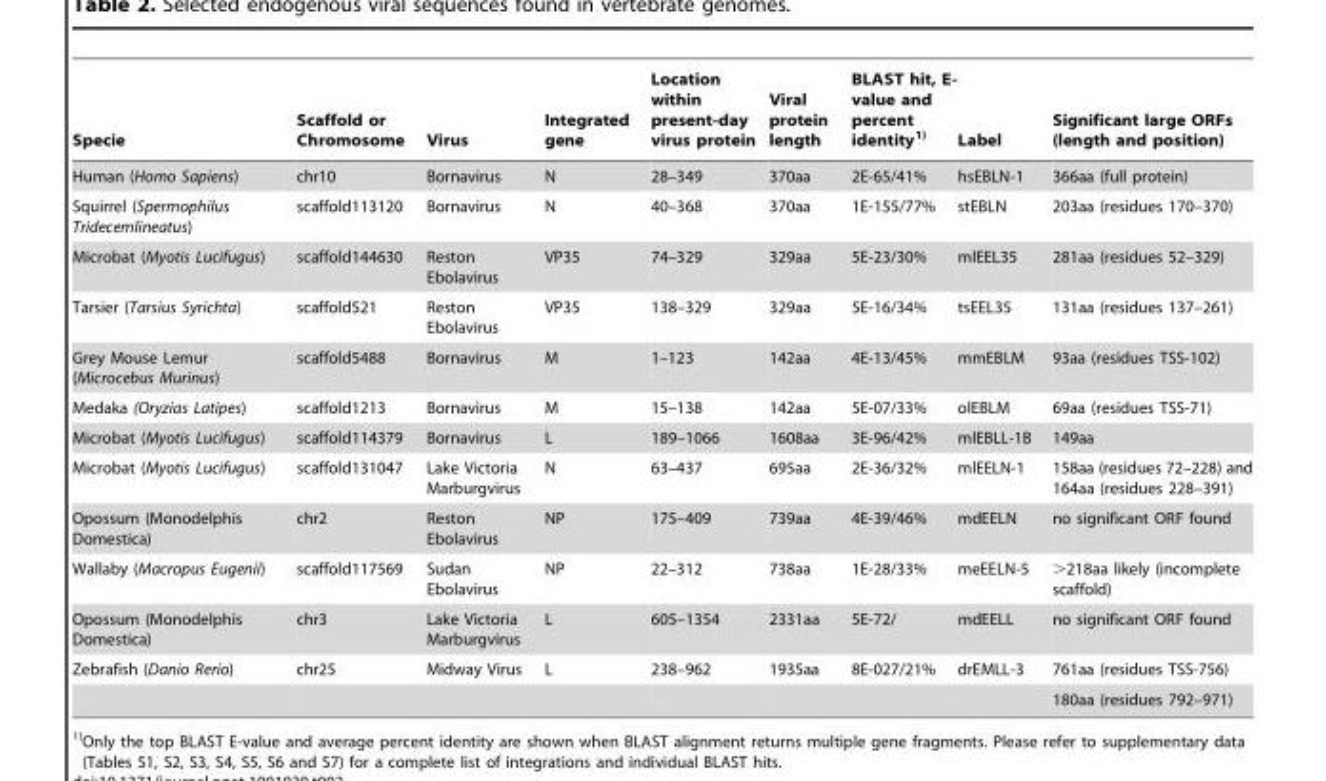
<table><thead><tr><td>Specie</td><td>Scaffold or Chromosome</td><td>Virus</td><td>Integrated gene</td><td>Location within present-day virus protein</td><td>Viral protein length</td><td>BLAST hit, E- value and percent identity1)</td><td>Label</td><td>Significant large ORFs (length and position)</td></tr></thead><tbody><tr><td>Human (Homo Sapiens)</td><td>chr10</td><td>Bornavirus</td><td>N</td><td>28–349</td><td>370aa</td><td>2E-65/41%</td><td>hsEBLN-1</td><td>366aa (full protein)</td></tr><tr><td>Squirrel (Spermophilus Tridecemlineatus)</td><td>scaffold113120</td><td>Bornavirus</td><td>N</td><td>40–368</td><td>370aa</td><td>1E-155/77%</td><td>stEBLN</td><td>203aa (residues 170–370)</td></tr><tr><td>Microbat (Myotis Lucifugus)</td><td>scaffold144630</td><td>Reston Ebolavirus</td><td>VP35</td><td>74–329</td><td>329aa</td><td>5E-23/30%</td><td>mlEEL35</td><td>281aa (residues 52–329)</td></tr><tr><td>Tarsier (Tarsius Syrichta)</td><td>scaffold521</td><td>Reston Ebolavirus</td><td>VP35</td><td>138–329</td><td>329aa</td><td>5E-16/34%</td><td>tsEEL35</td><td>131aa (residues 137–261)</td></tr><tr><td>Grey Mouse Lemur (Microcebus Murinus)</td><td>scaffold5488</td><td>Bornavirus</td><td>M</td><td>1–123</td><td>142aa</td><td>4E-13/45%</td><td>mmEBLM</td><td>93aa (residues TSS-102)</td></tr><tr><td>Medaka (Oryzias Latipes)</td><td>scaffold1213</td><td>Bornavirus</td><td>M</td><td>15–138</td><td>142aa</td><td>5E-07/33%</td><td>olEBLM</td><td>69aa (residues TSS-71)</td></tr><tr><td>Microbat (Myotis Lucifugus)</td><td>scaffold114379</td><td>Bornavirus</td><td>L</td><td>189–1066</td><td>1608aa</td><td>3E-96/42%</td><td>mlEBLL-1B</td><td>149aa</td></tr><tr><td>Microbat (Myotis Lucifugus)</td><td>scaffold131047</td><td>Lake Victoria Marburgvirus</td><td>N</td><td>63–437</td><td>695aa</td><td>2E-36/32%</td><td>mlEELN-1</td><td>158aa (residues 72–228) and 164aa (residues 228–391)</td></tr><tr><td>Opossum (Monodelphis Domestica)</td><td>chr2</td><td>Reston Ebolavirus</td><td>NP</td><td>175–409</td><td>739aa</td><td>4E-39/46%</td><td>mdEELN</td><td>no significant ORF found</td></tr><tr><td>Wallaby (Macropus Eugenii)</td><td>scaffold117569</td><td>Sudan Ebolavirus</td><td>NP</td><td>22–312</td><td>738aa</td><td>1E-28/33%</td><td>meEELN-5</td><td>&gt;218aa likely (incomplete scaffold)</td></tr><tr><td>Opossum (Monodelphis Domestica)</td><td>chr3</td><td>Lake Victoria Marburgvirus</td><td>L</td><td>605–1354</td><td>2331aa</td><td>5E-72/</td><td>mdEELL</td><td>no significant ORF found</td></tr><tr><td rowspan="2">Zebrafish (Danio Rerio)</td><td>chr25</td><td>Midway Virus</td><td>L</td><td>238–962</td><td>1935aa</td><td>8E-027/21%</td><td>drEMLL-3</td><td>761aa (residues TSS-756)</td></tr><tr><td></td><td></td><td></td><td></td><td></td><td></td><td></td><td>180aa (residues 792–971)</td></tr></tbody></table>